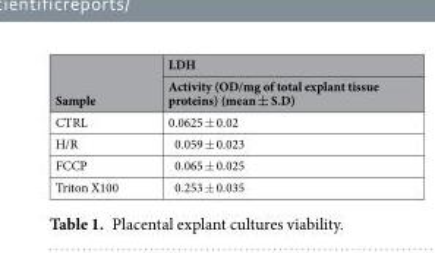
<table><thead><tr><td rowspan="2">Sample</td><td rowspan="2">LDH Activity (OD/mg of total explant tissue proteins) (mean ± S.D)</td></tr><tr></tr></thead><tbody><tr><td>CTRL</td><td>0.0625 ± 0.02</td></tr><tr><td>H/R</td><td>0.059 ± 0.023</td></tr><tr><td>FCCP</td><td>0.065 ± 0.025</td></tr><tr><td>Triton X100</td><td>0.253 ± 0.035</td></tr></tbody></table>